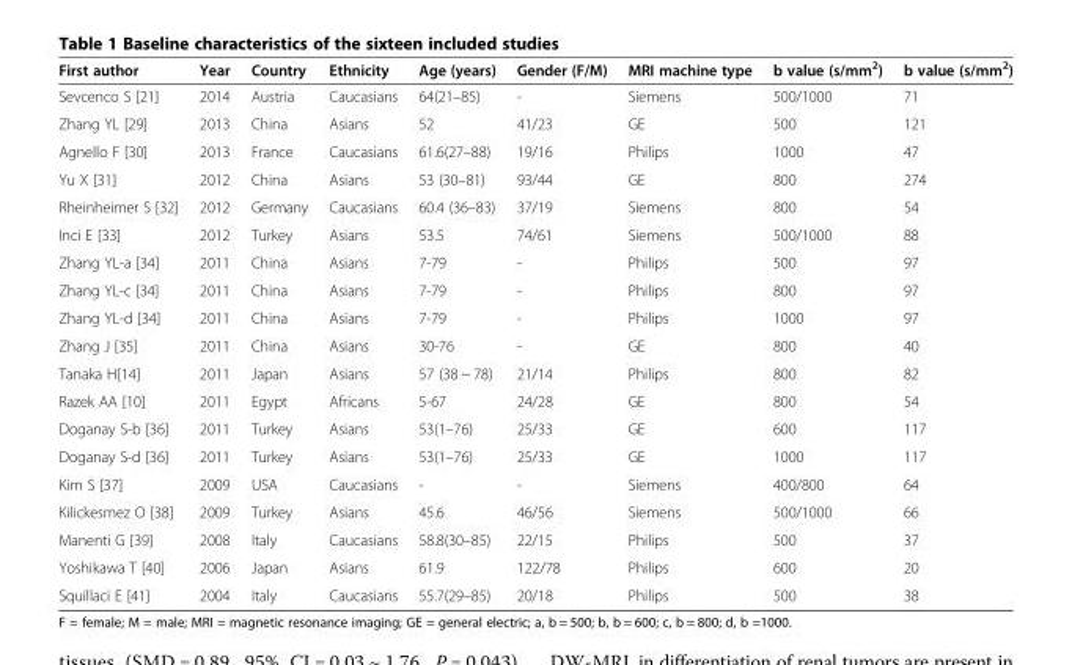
<table><thead><tr><td>First author</td><td>Year</td><td>Country</td><td>Ethnicity</td><td>Age (years)</td><td>Gender (F/M)</td><td>MRI machine type</td><td>b value (s/mm<sup>2</sup>)</td><td>b value (s/mm<sup>2</sup>)</td></tr></thead><tbody><tr><td>Sevcenco S [21]</td><td>2014</td><td>Austria</td><td>Caucasians</td><td>64(21–85)</td><td>-</td><td>Siemens</td><td>500/1000</td><td>71</td></tr><tr><td>Zhang YL [29]</td><td>2013</td><td>China</td><td>Asians</td><td>52</td><td>41/23</td><td>GE</td><td>500</td><td>121</td></tr><tr><td>Agnello F [30]</td><td>2013</td><td>France</td><td>Caucasians</td><td>61.6(27–88)</td><td>19/16</td><td>Philips</td><td>1000</td><td>47</td></tr><tr><td>Yu X [31]</td><td>2012</td><td>China</td><td>Asians</td><td>53 (30–81)</td><td>93/44</td><td>GE</td><td>800</td><td>274</td></tr><tr><td>Rheinheimer S [32]</td><td>2012</td><td>Germany</td><td>Caucasians</td><td>60.4 (36–83)</td><td>37/19</td><td>Siemens</td><td>800</td><td>54</td></tr><tr><td>Inci E [33]</td><td>2012</td><td>Turkey</td><td>Asians</td><td>53.5</td><td>74/61</td><td>Siemens</td><td>500/1000</td><td>88</td></tr><tr><td>Zhang YL-a [34]</td><td>2011</td><td>China</td><td>Asians</td><td>7-79</td><td>-</td><td>Philips</td><td>500</td><td>97</td></tr><tr><td>Zhang YL-c [34]</td><td>2011</td><td>China</td><td>Asians</td><td>7-79</td><td>-</td><td>Philips</td><td>800</td><td>97</td></tr><tr><td>Zhang YL-d [34]</td><td>2011</td><td>China</td><td>Asians</td><td>7-79</td><td>-</td><td>Philips</td><td>1000</td><td>97</td></tr><tr><td>Zhang J [35]</td><td>2011</td><td>China</td><td>Asians</td><td>30-76</td><td>-</td><td>GE</td><td>800</td><td>40</td></tr><tr><td>Tanaka H[14]</td><td>2011</td><td>Japan</td><td>Asians</td><td>57 (38 ~ 78)</td><td>21/14</td><td>Philips</td><td>800</td><td>82</td></tr><tr><td>Razek AA [10]</td><td>2011</td><td>Egypt</td><td>Africans</td><td>5-67</td><td>24/28</td><td>GE</td><td>800</td><td>54</td></tr><tr><td>Doganay S-b [36]</td><td>2011</td><td>Turkey</td><td>Asians</td><td>53(1–76)</td><td>25/33</td><td>GE</td><td>600</td><td>117</td></tr><tr><td>Doganay S-d [36]</td><td>2011</td><td>Turkey</td><td>Asians</td><td>53(1–76)</td><td>25/33</td><td>GE</td><td>1000</td><td>117</td></tr><tr><td>Kim S [37]</td><td>2009</td><td>USA</td><td>Caucasians</td><td>-</td><td>-</td><td>Siemens</td><td>400/800</td><td>64</td></tr><tr><td>Kilickesmez O [38]</td><td>2009</td><td>Turkey</td><td>Asians</td><td>45.6</td><td>46/56</td><td>Siemens</td><td>500/1000</td><td>66</td></tr><tr><td>Manenti G [39]</td><td>2008</td><td>Italy</td><td>Caucasians</td><td>58.8(30–85)</td><td>22/15</td><td>Philips</td><td>500</td><td>37</td></tr><tr><td>Yoshikawa T [40]</td><td>2006</td><td>Japan</td><td>Asians</td><td>61.9</td><td>122/78</td><td>Philips</td><td>600</td><td>20</td></tr><tr><td>Squillaci E [41]</td><td>2004</td><td>Italy</td><td>Caucasians</td><td>55.7(29–85)</td><td>20/18</td><td>Philips</td><td>500</td><td>38</td></tr></tbody></table>